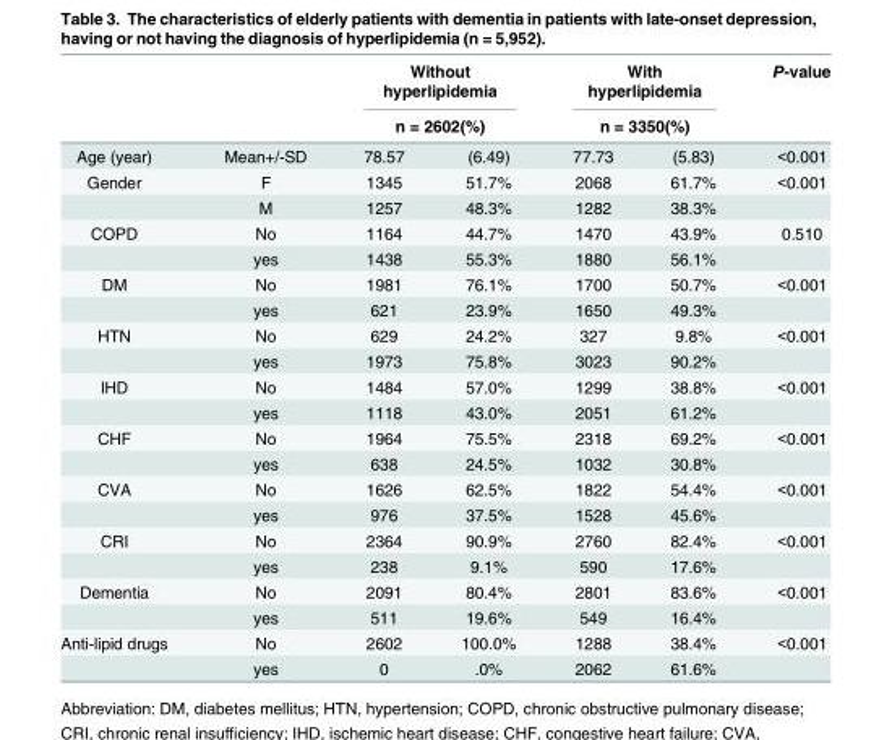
<table><thead><tr><td rowspan="3">Age (year)</td><td rowspan="3">Mean+/-SD</td><td rowspan="2" colspan="2">Without hyperlipidemia n = 2602(%)</td><td rowspan="2" colspan="2">With hyperlipidemia n = 3350(%)</td><td rowspan="3">P-value &lt;0.001</td></tr><tr></tr><tr><td>78.57</td><td>(6.49)</td><td>77.73</td><td>(5.83)</td></tr></thead><tbody><tr><td rowspan="2">Gender</td><td>F</td><td>1345</td><td>51.7%</td><td>2068</td><td>61.7%</td><td>&lt;0.001</td></tr><tr><td>M</td><td>1257</td><td>48.3%</td><td>1282</td><td>38.3%</td><td></td></tr><tr><td rowspan="2">COPD</td><td>No</td><td>1164</td><td>44.7%</td><td>1470</td><td>43.9%</td><td>0.510</td></tr><tr><td>yes</td><td>1438</td><td>55.3%</td><td>1880</td><td>56.1%</td><td></td></tr><tr><td rowspan="2">DM</td><td>No</td><td>1981</td><td>76.1%</td><td>1700</td><td>50.7%</td><td>&lt;0.001</td></tr><tr><td>yes</td><td>621</td><td>23.9%</td><td>1650</td><td>49.3%</td><td></td></tr><tr><td rowspan="2">HTN</td><td>No</td><td>629</td><td>24.2%</td><td>327</td><td>9.8%</td><td>&lt;0.001</td></tr><tr><td>yes</td><td>1973</td><td>75.8%</td><td>3023</td><td>90.2%</td><td></td></tr><tr><td rowspan="2">IHD</td><td>No</td><td>1484</td><td>57.0%</td><td>1299</td><td>38.8%</td><td>&lt;0.001</td></tr><tr><td>yes</td><td>1118</td><td>43.0%</td><td>2051</td><td>61.2%</td><td></td></tr><tr><td rowspan="2">CHF</td><td>No</td><td>1964</td><td>75.5%</td><td>2318</td><td>69.2%</td><td>&lt;0.001</td></tr><tr><td>yes</td><td>638</td><td>24.5%</td><td>1032</td><td>30.8%</td><td></td></tr><tr><td rowspan="2">CVA</td><td>No</td><td>1626</td><td>62.5%</td><td>1822</td><td>54.4%</td><td>&lt;0.001</td></tr><tr><td>yes</td><td>976</td><td>37.5%</td><td>1528</td><td>45.6%</td><td></td></tr><tr><td rowspan="2">CRI</td><td>No</td><td>2364</td><td>90.9%</td><td>2760</td><td>82.4%</td><td>&lt;0.001</td></tr><tr><td>yes</td><td>238</td><td>9.1%</td><td>590</td><td>17.6%</td><td></td></tr><tr><td rowspan="2">Dementia</td><td>No</td><td>2091</td><td>80.4%</td><td>2801</td><td>83.6%</td><td>&lt;0.001</td></tr><tr><td>yes</td><td>511</td><td>19.6%</td><td>549</td><td>16.4%</td><td></td></tr><tr><td rowspan="2">Anti-lipid drugs</td><td>No</td><td>2602</td><td>100.0%</td><td>1288</td><td>38.4%</td><td>&lt;0.001</td></tr><tr><td>yes</td><td>0</td><td>.0%</td><td>2062</td><td>61.6%</td><td></td></tr></tbody></table>